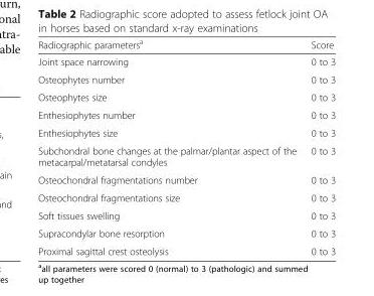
<table><thead><tr><td>Radiographic parameters<sup>a</sup></td><td>Score</td></tr></thead><tbody><tr><td>Joint space narrowing</td><td>0 to 3</td></tr><tr><td>Osteophytes number</td><td>0 to 3</td></tr><tr><td>Osteophytes size</td><td>0 to 3</td></tr><tr><td>Enthesiophytes number</td><td>0 to 3</td></tr><tr><td>Enthesiophytes size</td><td>0 to 3</td></tr><tr><td>Subchondral bone changes at the palmar/plantar aspect of the metacarpal/metatarsal condyles</td><td>0 to 3</td></tr><tr><td>Osteochondral fragmentations number</td><td>0 to 3</td></tr><tr><td>Osteochondral fragmentations size</td><td>0 to 3</td></tr><tr><td>Soft tissues swelling</td><td>0 to 3</td></tr><tr><td>Supracondylar bone resorption</td><td>0 to 3</td></tr><tr><td>Proximal sagittal crest osteolysis</td><td>0 to 3</td></tr></tbody></table>